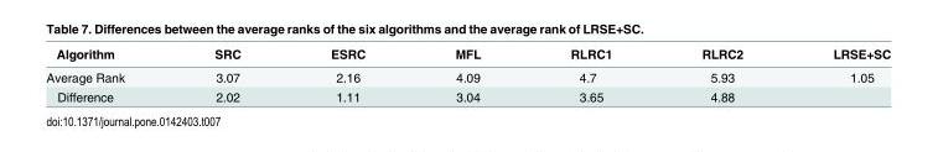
<table><thead><tr><td>Algorithm</td><td>SRC</td><td>ESRC</td><td>MFL</td><td>RLRC1</td><td>RLRC2</td><td>LRSE+SC</td></tr></thead><tbody><tr><td>Average Rank</td><td>3.07</td><td>2.16</td><td>4.09</td><td>4.7</td><td>5.93</td><td>1.05</td></tr><tr><td>Difference</td><td>2.02</td><td>1.11</td><td>3.04</td><td>3.65</td><td>4.88</td><td></td></tr></tbody></table>